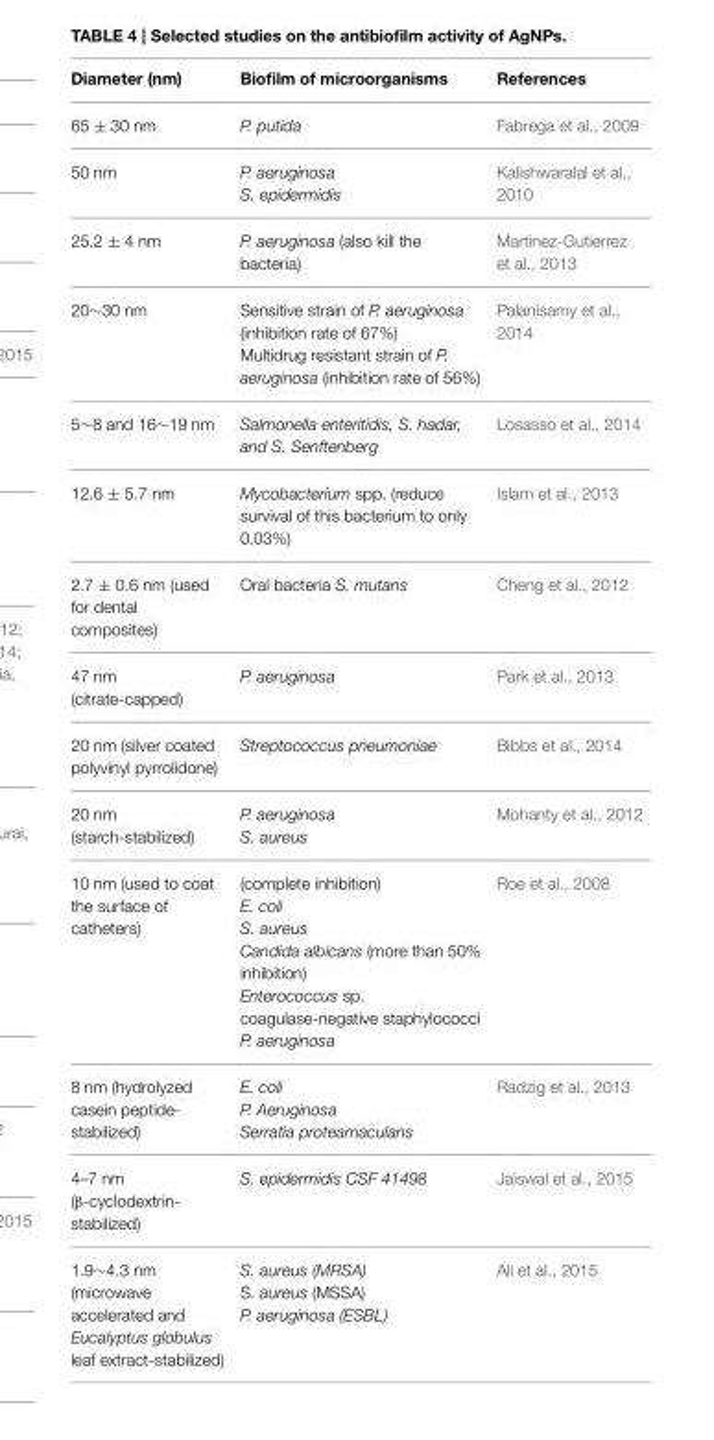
<table><thead><tr><td>Diameter (nm)</td><td>Biofilm of microorganisms</td><td>References</td></tr></thead><tbody><tr><td>65 ± 30 nm</td><td>P. putida</td><td>Fabrega et al., 2009</td></tr><tr><td>50 nm</td><td>P. aeruginosa S. epidermidis</td><td>Kalishwaralal et al., 2010</td></tr><tr><td>25.2 ± 4 nm</td><td>P. aeruginosa (also kill the bacteria)</td><td>Martinez-Gutierrez et al., 2013</td></tr><tr><td>20∼30 nm</td><td>Sensitive strain of P. aeruginosa (inhibition rate of 67%) Multidrug resistant strain of P. aeruginosa (inhibition rate of 56%)</td><td>Palanisamy et al., 2014</td></tr><tr><td>5∼8 and 16∼19 nm</td><td>Salmonella enteritidis, S. hadar, and S. Senftenberg</td><td>Losasso et al., 2014</td></tr><tr><td>12.6 ± 5.7 nm</td><td>Mycobacterium spp. (reduce survival of this bacterium to only 0.03%)</td><td>Islam et al., 2013</td></tr><tr><td>2.7 ± 0.6 nm (used for dental composites)</td><td>Oral bacteria S. mutans</td><td>Cheng et al., 2012</td></tr><tr><td>47 nm (citrate-capped)</td><td>P. aeruginosa</td><td>Park et al., 2013</td></tr><tr><td>20 nm (silver coated polyvinyl pyrrolidone)</td><td>Streptococcus pneumoniae</td><td>Bibbs et al., 2014</td></tr><tr><td>20 nm (starch-stabilized)</td><td>P. aeruginosa S. aureus</td><td>Mohanty et al., 2012</td></tr><tr><td>10 nm (used to coat the surface of catheters)</td><td>(complete inhibition) E. coli S. aureus Candida albicans (more than 50% inhibition) Enterococcus sp. coagulase-negative staphylococci P. aeruginosa</td><td>Roe et al., 2008</td></tr><tr><td>8 nm (hydrolyzed casein peptide- stabilized)</td><td>E. coli P. Aeruginosa Serratia proteamaculans</td><td>Radzig et al., 2013</td></tr><tr><td>4–7 nm (β-cyclodextrin- stabilized)</td><td>S. epidermidis CSF 41498</td><td>Jaiswal et al., 2015</td></tr><tr><td>1.9∼4.3 nm (microwave accelerated and Eucalyptus globulus leaf extract-stabilized)</td><td>S. aureus (MRSA) S. aureus (MSSA) P. aeruginosa (ESBL)</td><td>Ali et al., 2015</td></tr></tbody></table>